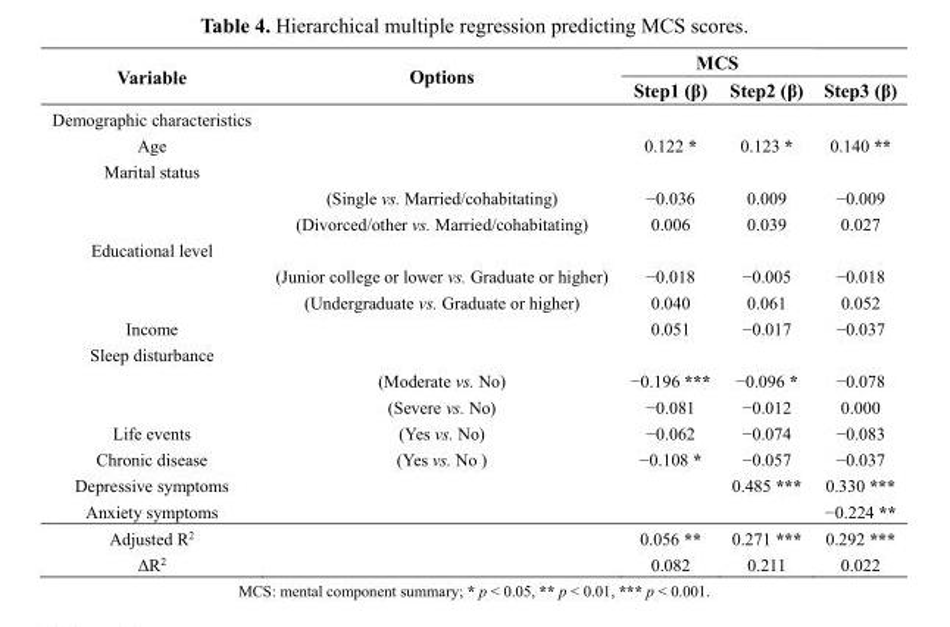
<table><thead><tr><td rowspan="2">Variable</td><td rowspan="2">Options</td><td colspan="2">MCS</td><td rowspan="2">Step3 (β)</td></tr><tr><td>Step1 (β)</td><td>Step2 (β)</td></tr></thead><tbody><tr><td colspan="5">Demographic characteristics</td></tr><tr><td>Age</td><td></td><td>0.122 *</td><td>0.123 *</td><td>0.140 **</td></tr><tr><td colspan="5">Marital status</td></tr><tr><td></td><td>(Single vs. Married/cohabitating)</td><td>−0.036</td><td>0.009</td><td>−0.009</td></tr><tr><td></td><td>(Divorced/other vs. Married/cohabitating)</td><td>0.006</td><td>0.039</td><td>0.027</td></tr><tr><td colspan="5">Educational level</td></tr><tr><td></td><td>(Junior college or lower vs. Graduate or higher)</td><td>−0.018</td><td>−0.005</td><td>−0.018</td></tr><tr><td></td><td>(Undergraduate vs. Graduate or higher)</td><td>0.040</td><td>0.061</td><td>0.052</td></tr><tr><td>Income</td><td></td><td>0.051</td><td>−0.017</td><td>−0.037</td></tr><tr><td colspan="5">Sleep disturbance</td></tr><tr><td></td><td>(Moderate vs. No)</td><td>−0.196 ***</td><td>−0.096 *</td><td>−0.078</td></tr><tr><td></td><td>(Severe vs. No)</td><td>−0.081</td><td>−0.012</td><td>0.000</td></tr><tr><td>Life events</td><td>(Yes vs. No)</td><td>−0.062</td><td>−0.074</td><td>−0.083</td></tr><tr><td>Chronic disease</td><td>(Yes vs. No )</td><td>−0.108 *</td><td>−0.057</td><td>−0.037</td></tr><tr><td>Depressive symptoms</td><td></td><td></td><td>0.485 ***</td><td>0.330 ***</td></tr><tr><td>Anxiety symptoms</td><td></td><td></td><td></td><td>−0.224 **</td></tr><tr><td>Adjusted R<sup>2</sup></td><td></td><td>0.056 **</td><td>0.271 ***</td><td>0.292 ***</td></tr><tr><td>ΔR<sup>2</sup></td><td></td><td>0.082</td><td>0.211</td><td>0.022</td></tr></tbody></table>